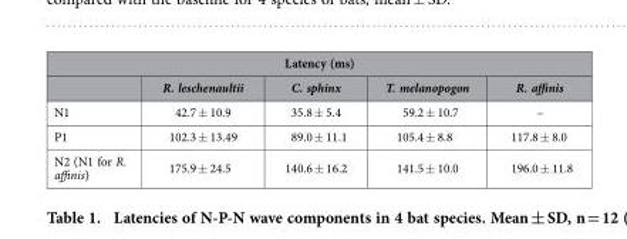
<table><thead><tr><td colspan="5">Latency (ms)</td></tr><tr><td></td><td>R. leschenaultii</td><td>C. sphinx</td><td>T. melanopogon</td><td>R. affinis</td></tr></thead><tbody><tr><td>N1</td><td>42.7 ± 10.9</td><td>35.8 ± 5.4</td><td>59.2 ± 10.7</td><td>–</td></tr><tr><td>P1</td><td>102.3 ± 13.49</td><td>89.0 ± 11.1</td><td>105.4 ± 8.8</td><td>117.8 ± 8.0</td></tr><tr><td>N2 (N1 for R. affinis)</td><td>175.9 ± 24.5</td><td>140.6 ± 16.2</td><td>141.5 ± 10.0</td><td>196.0 ± 11.8</td></tr></tbody></table>